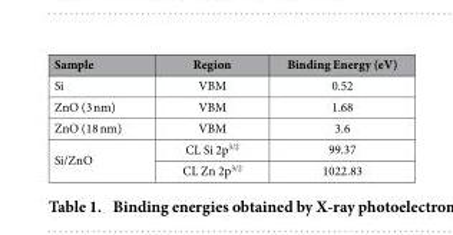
<table><thead><tr><td>Sample</td><td>Region</td><td>Binding Energy (eV)</td></tr></thead><tbody><tr><td>Si</td><td>VBM</td><td>0.52</td></tr><tr><td>ZnO (3 nm)</td><td>VBM</td><td>1.68</td></tr><tr><td>ZnO (18 nm)</td><td>VBM</td><td>3.6</td></tr><tr><td rowspan="2">Si/ZnO</td><td>CL Si 2p<sup>3/2</sup></td><td>99.37</td></tr><tr><td>CL Zn 2p<sup>3/2</sup></td><td>1022.83</td></tr></tbody></table>